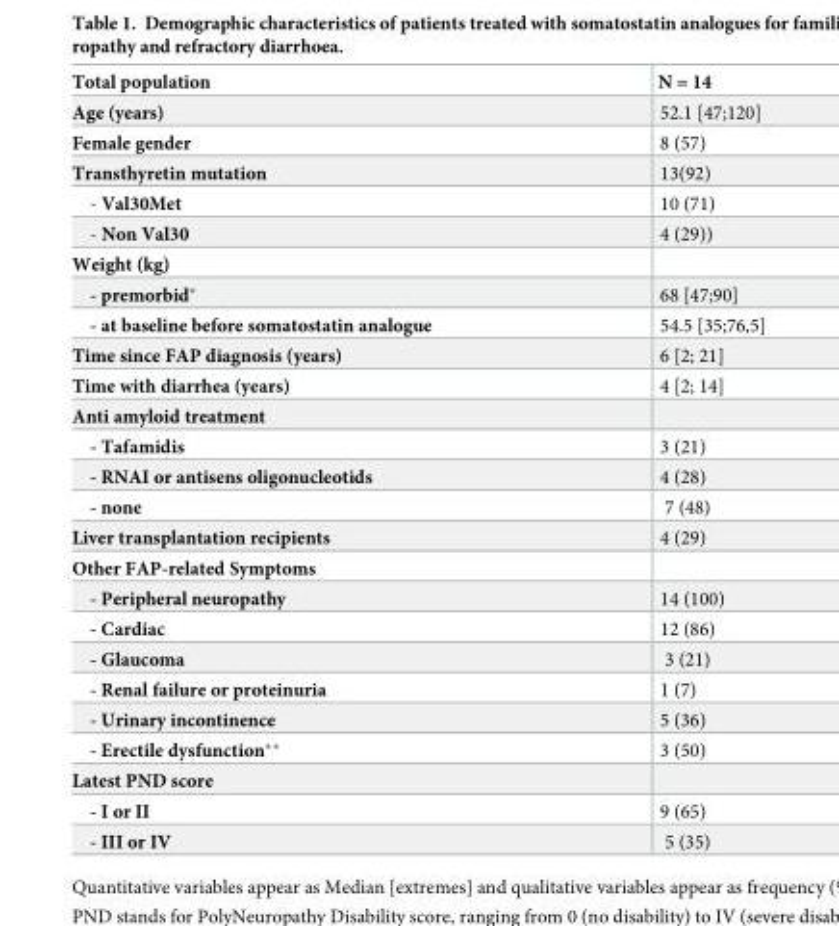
<table><thead><tr><td>Total population</td><td>N = 14</td></tr></thead><tbody><tr><td>Age (years)</td><td>52.1 [47;120]</td></tr><tr><td>Female gender</td><td>8 (57)</td></tr><tr><td>Transthyretin mutation</td><td>13(92)</td></tr><tr><td>- Val30Met</td><td>10 (71)</td></tr><tr><td>- Non Val30</td><td>4 (29))</td></tr><tr><td colspan="2">Weight (kg)</td></tr><tr><td>- premorbid*</td><td>68 [47;90]</td></tr><tr><td>- at baseline before somatostatin analogue</td><td>54.5 [35;76,5]</td></tr><tr><td>Time since FAP diagnosis (years)</td><td>6 [2; 21]</td></tr><tr><td>Time with diarrhea (years)</td><td>4 [2; 14]</td></tr><tr><td colspan="2">Anti amyloid treatment</td></tr><tr><td>- Tafamidis</td><td>3 (21)</td></tr><tr><td>- RNAI or antisens oligonucleotids</td><td>4 (28)</td></tr><tr><td>- none</td><td>7 (48)</td></tr><tr><td>Liver transplantation recipients</td><td>4 (29)</td></tr><tr><td colspan="2">Other FAP-related Symptoms</td></tr><tr><td>- Peripheral neuropathy</td><td>14 (100)</td></tr><tr><td>- Cardiac</td><td>12 (86)</td></tr><tr><td>- Glaucoma</td><td>3 (21)</td></tr><tr><td>- Renal failure or proteinuria</td><td>1 (7)</td></tr><tr><td>- Urinary incontinence</td><td>5 (36)</td></tr><tr><td>- Erectile dysfunction**</td><td>3 (50)</td></tr><tr><td colspan="2">Latest PND score</td></tr><tr><td>- I or II</td><td>9 (65)</td></tr><tr><td>- III or IV</td><td>5 (35)</td></tr></tbody></table>